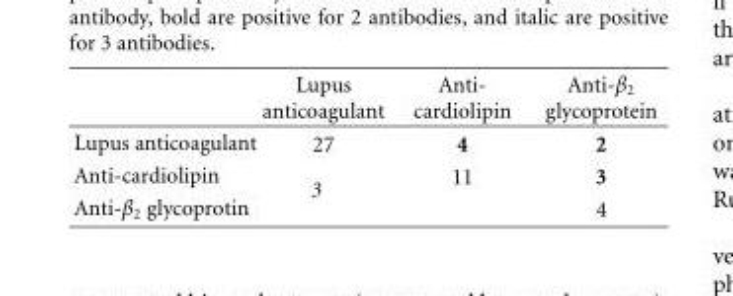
<table><thead><tr><td></td><td>Lupus anticoagulant</td><td>Anti- cardiolipin</td><td>Anti-β<sub>2</sub> glycoprotein</td></tr></thead><tbody><tr><td>Lupus anticoagulant</td><td>27</td><td>4</td><td>2</td></tr><tr><td>Anti-cardiolipin</td><td rowspan="2">3</td><td>11</td><td>3</td></tr><tr><td>Anti-β<sub>2</sub> glycoprotin</td><td></td><td>4</td></tr></tbody></table>